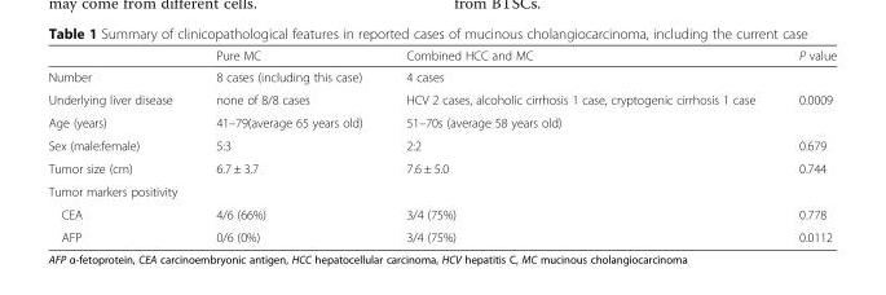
<table><thead><tr><td></td><td>Pure MC</td><td>Combined HCC and MC</td><td>P value</td></tr></thead><tbody><tr><td>Number</td><td>8 cases (including this case)</td><td>4 cases</td><td></td></tr><tr><td>Underlying liver disease</td><td>none of 8/8 cases</td><td>HCV 2 cases, alcoholic cirrhosis 1 case, cryptogenic cirrhosis 1 case</td><td>0.0009</td></tr><tr><td>Age (years)</td><td>41–79(average 65 years old)</td><td>51–70s (average 58 years old)</td><td></td></tr><tr><td>Sex (male:female)</td><td>5:3</td><td>2:2</td><td>0.679</td></tr><tr><td>Tumor size (cm)</td><td>6.7 ± 3.7</td><td>7.6 ± 5.0</td><td>0.744</td></tr><tr><td colspan="4">Tumor markers positivity</td></tr><tr><td>CEA</td><td>4/6 (66%)</td><td>3/4 (75%)</td><td>0.778</td></tr><tr><td>AFP</td><td>0/6 (0%)</td><td>3/4 (75%)</td><td>0.0112</td></tr></tbody></table>